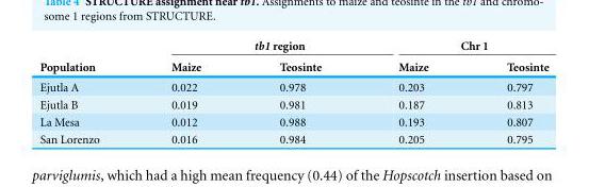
<table><thead><tr><td rowspan="2">Population</td><td colspan="2">tb1 region</td><td colspan="2">Chr 1</td></tr><tr><td>Maize</td><td>Teosinte</td><td>Maize</td><td>Teosinte</td></tr></thead><tbody><tr><td>Ejutla A</td><td>0.022</td><td>0.978</td><td>0.203</td><td>0.797</td></tr><tr><td>Ejutla B</td><td>0.019</td><td>0.981</td><td>0.187</td><td>0.813</td></tr><tr><td>La Mesa</td><td>0.012</td><td>0.988</td><td>0.193</td><td>0.807</td></tr><tr><td>San Lorenzo</td><td>0.016</td><td>0.984</td><td>0.205</td><td>0.795</td></tr></tbody></table>